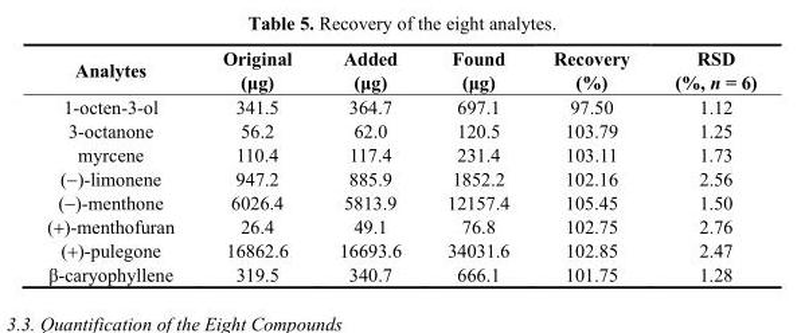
<table><thead><tr><td>Analytes</td><td>Original (μg)</td><td>Added (μg)</td><td>Found (μg)</td><td>Recovery (%)</td><td>RSD (%, n = 6)</td></tr></thead><tbody><tr><td>1-octen-3-ol</td><td>341.5</td><td>364.7</td><td>697.1</td><td>97.50</td><td>1.12</td></tr><tr><td>3-octanone</td><td>56.2</td><td>62.0</td><td>120.5</td><td>103.79</td><td>1.25</td></tr><tr><td>myrcene</td><td>110.4</td><td>117.4</td><td>231.4</td><td>103.11</td><td>1.73</td></tr><tr><td>(−)-limonene</td><td>947.2</td><td>885.9</td><td>1852.2</td><td>102.16</td><td>2.56</td></tr><tr><td>(−)-menthone</td><td>6026.4</td><td>5813.9</td><td>12157.4</td><td>105.45</td><td>1.50</td></tr><tr><td>(+)-menthofuran</td><td>26.4</td><td>49.1</td><td>76.8</td><td>102.75</td><td>2.76</td></tr><tr><td>(+)-pulegone</td><td>16862.6</td><td>16693.6</td><td>34031.6</td><td>102.85</td><td>2.47</td></tr><tr><td>β-caryophyllene</td><td>319.5</td><td>340.7</td><td>666.1</td><td>101.75</td><td>1.28</td></tr></tbody></table>